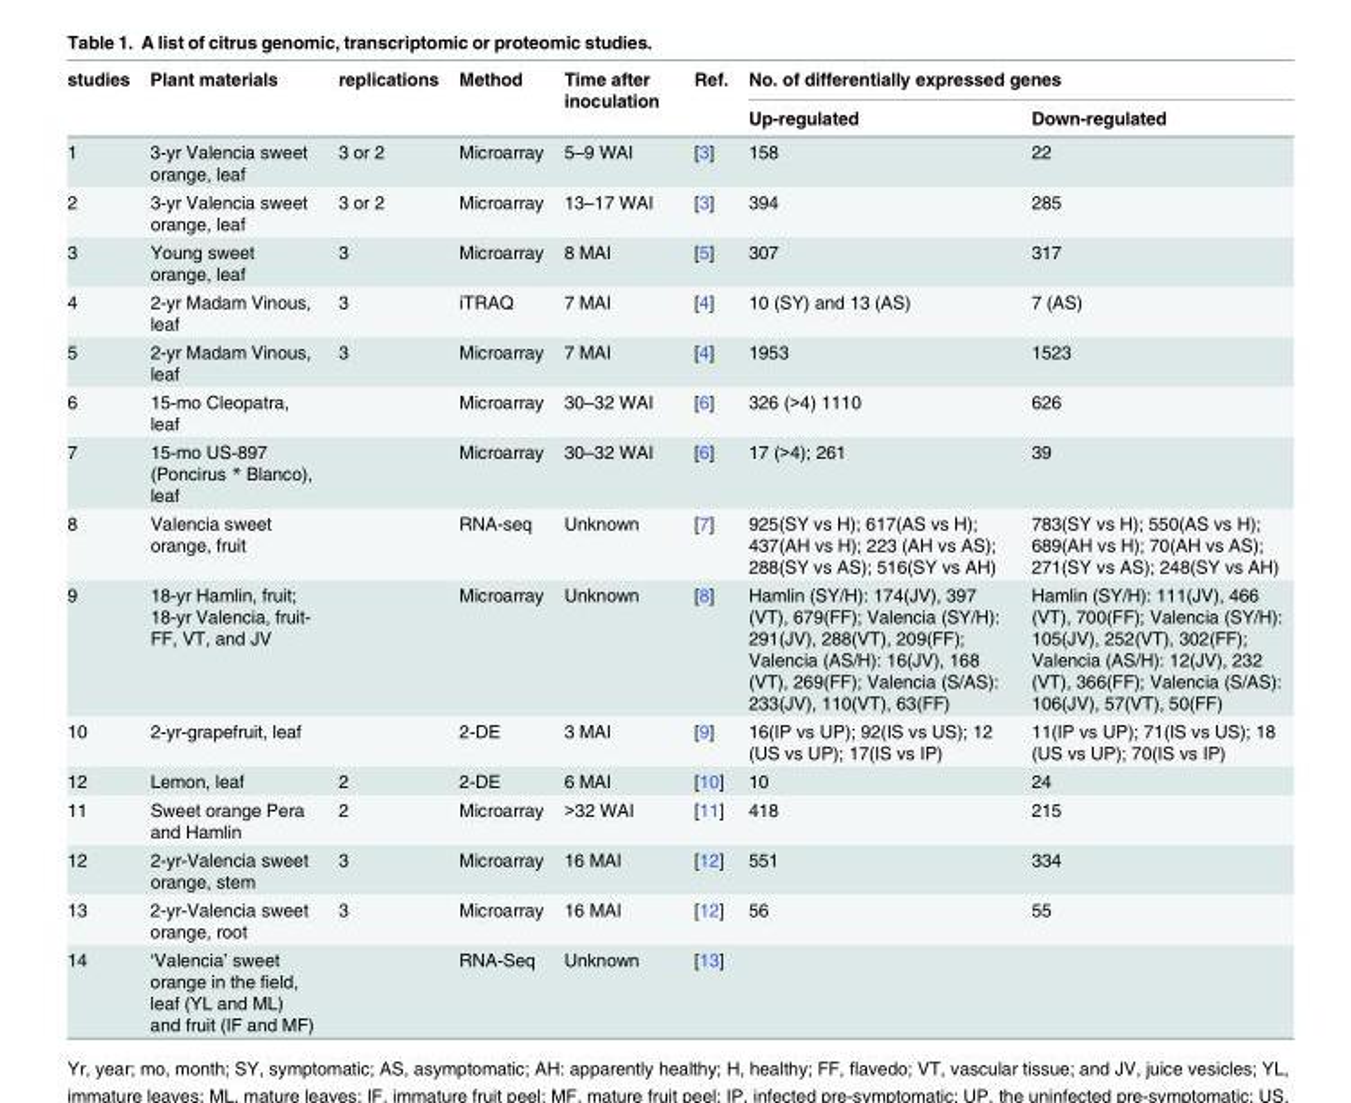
<table><thead><tr><td rowspan="2">studies</td><td rowspan="2">Plant materials</td><td rowspan="2">replications</td><td rowspan="2">Method</td><td rowspan="2">Time after inoculation</td><td rowspan="2">Ref.</td><td colspan="2">No. of differentially expressed genes</td></tr><tr><td>Up-regulated</td><td>Down-regulated</td></tr></thead><tbody><tr><td>1</td><td>3-yr Valencia sweet orange, leaf</td><td>3 or 2</td><td>Microarray</td><td>5–9 WAI</td><td>[3]</td><td>158</td><td>22</td></tr><tr><td>2</td><td>3-yr Valencia sweet orange, leaf</td><td>3 or 2</td><td>Microarray</td><td>13–17 WAI</td><td>[3]</td><td>394</td><td>285</td></tr><tr><td>3</td><td>Young sweet orange, leaf</td><td>3</td><td>Microarray</td><td>8 MAI</td><td>[5]</td><td>307</td><td>317</td></tr><tr><td>4</td><td>2-yr Madam Vinous, leaf</td><td>3</td><td>iTRAQ</td><td>7 MAI</td><td>[4]</td><td>10 (SY) and 13 (AS)</td><td>7 (AS)</td></tr><tr><td>5</td><td>2-yr Madam Vinous, leaf</td><td>3</td><td>Microarray</td><td>7 MAI</td><td>[4]</td><td>1953</td><td>1523</td></tr><tr><td>6</td><td>15-mo Cleopatra, leaf</td><td></td><td>Microarray</td><td>30–32 WAI</td><td>[6]</td><td>326 (&gt;4) 1110</td><td>626</td></tr><tr><td>7</td><td>15-mo US-897 (Poncirus * Blanco), leaf</td><td></td><td>Microarray</td><td>30–32 WAI</td><td>[6]</td><td>17 (&gt;4); 261</td><td>39</td></tr><tr><td>8</td><td>Valencia sweet orange, fruit</td><td></td><td>RNA-seq</td><td>Unknown</td><td>[7]</td><td>925(SY vs H); 617(AS vs H); 437(AH vs H); 223 (AH vs AS); 288(SY vs AS); 516(SY vs AH)</td><td>783(SY vs H); 550(AS vs H); 689(AH vs H); 70(AH vs AS); 271(SY vs AS); 248(SY vs AH)</td></tr><tr><td>9</td><td>18-yr Hamlin, fruit; 18-yr Valencia, fruit- FF, VT, and JV</td><td></td><td>Microarray</td><td>Unknown</td><td>[8]</td><td>Hamlin (SY/H): 174(JV), 397 (VT), 679(FF); Valencia (SY/H): 291(JV), 288(VT), 209(FF); Valencia (AS/H): 16(JV), 168 (VT), 269(FF); Valencia (S/AS): 233(JV), 110(VT), 63(FF)</td><td>Hamlin (SY/H): 111(JV), 466 (VT), 700(FF); Valencia (SY/H): 105(JV), 252(VT), 302(FF); Valencia (AS/H): 12(JV), 232 (VT), 366(FF); Valencia (S/AS): 106(JV), 57(VT), 50(FF)</td></tr><tr><td>10</td><td>2-yr-grapefruit, leaf</td><td></td><td>2-DE</td><td>3 MAI</td><td>[9]</td><td>16(IP vs UP); 92(IS vs US); 12 (US vs UP); 17(IS vs IP)</td><td>11(IP vs UP); 71(IS vs US); 18 (US vs UP); 70(IS vs IP)</td></tr><tr><td>12</td><td>Lemon, leaf</td><td>2</td><td>2-DE</td><td>6 MAI</td><td>[10]</td><td>10</td><td>24</td></tr><tr><td>11</td><td>Sweet orange Pera and Hamlin</td><td>2</td><td>Microarray</td><td>&gt;32 WAI</td><td>[11]</td><td>418</td><td>215</td></tr><tr><td>12</td><td>2-yr-Valencia sweet orange, stem</td><td>3</td><td>Microarray</td><td>16 MAI</td><td>[12]</td><td>551</td><td>334</td></tr><tr><td>13</td><td>2-yr-Valencia sweet orange, root</td><td>3</td><td>Microarray</td><td>16 MAI</td><td>[12]</td><td>56</td><td>55</td></tr><tr><td>14</td><td>‘Valencia’ sweet orange in the field, leaf (YL and ML) and fruit (IF and MF)</td><td></td><td>RNA-Seq</td><td>Unknown</td><td>[13]</td><td></td><td></td></tr></tbody></table>